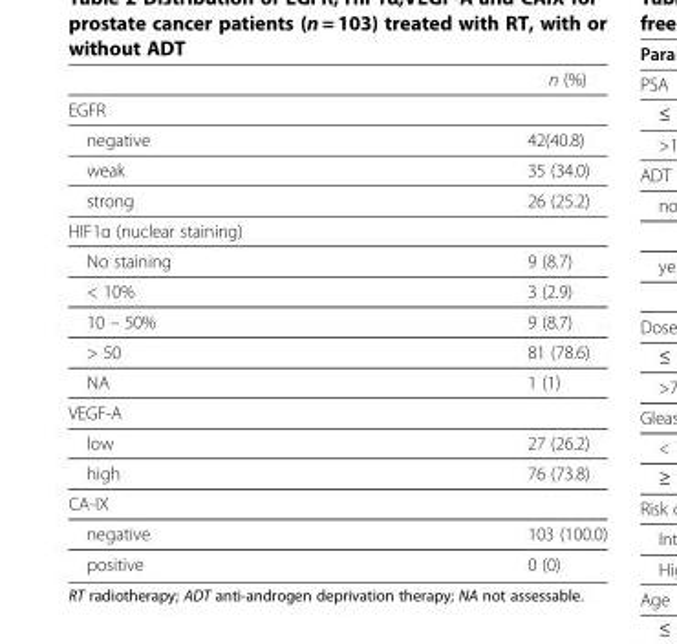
<table><thead><tr><td></td><td>n (%)</td></tr></thead><tbody><tr><td colspan="2">EGFR</td></tr><tr><td>negative</td><td>42(40.8)</td></tr><tr><td>weak</td><td>35 (34.0)</td></tr><tr><td>strong</td><td>26 (25.2)</td></tr><tr><td colspan="2">HIF1α (nuclear staining)</td></tr><tr><td>No staining</td><td>9 (8.7)</td></tr><tr><td>&lt; 10%</td><td>3 (2.9)</td></tr><tr><td>10 – 50%</td><td>9 (8.7)</td></tr><tr><td>&gt; 50</td><td>81 (78.6)</td></tr><tr><td>NA</td><td>1 (1)</td></tr><tr><td colspan="2">VEGF-A</td></tr><tr><td>low</td><td>27 (26.2)</td></tr><tr><td>high</td><td>76 (73.8)</td></tr><tr><td colspan="2">CA-IX</td></tr><tr><td>negative</td><td>103 (100.0)</td></tr><tr><td>positive</td><td>0 (0)</td></tr></tbody></table>